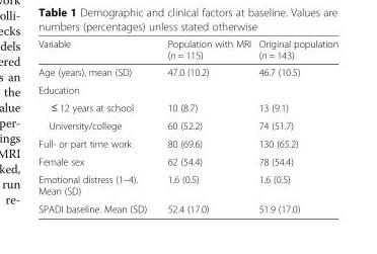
<table><thead><tr><td>Variable</td><td>Population with MRI (n = 115)</td><td>Original population (n = 143)</td></tr></thead><tbody><tr><td>Age (years), mean (SD)</td><td>47.0 (10.2)</td><td>46.7 (10.5)</td></tr><tr><td colspan="3">Education</td></tr><tr><td>≤ 12 years at school</td><td>10 (8.7)</td><td>13 (9.1)</td></tr><tr><td>University/college</td><td>60 (52.2)</td><td>74 (51.7)</td></tr><tr><td>Full- or part time work</td><td>80 (69.6)</td><td>130 (65.2)</td></tr><tr><td>Female sex</td><td>62 (54.4)</td><td>78 (54.4)</td></tr><tr><td>Emotional distress (1–4). Mean (SD)</td><td>1.6 (0.5)</td><td>1.6 (0.5)</td></tr><tr><td>SPADI baseline. Mean (SD)</td><td>52.4 (17.0)</td><td>51.9 (17.0)</td></tr></tbody></table>